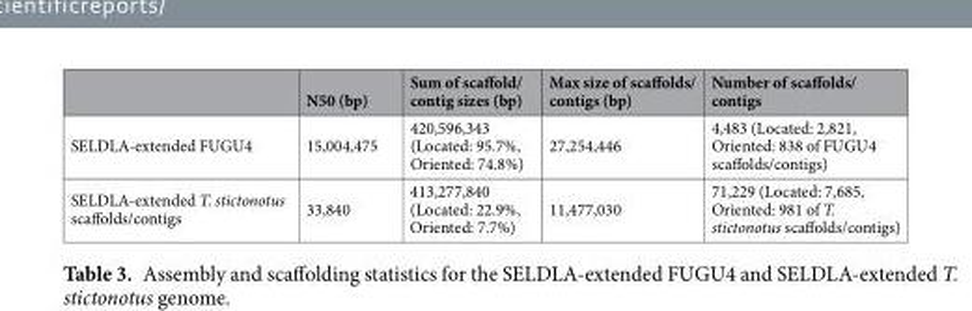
<table><thead><tr><td></td><td>N50 (bp)</td><td>Sum of scaffold/ contig sizes (bp)</td><td>Max size of scaffolds/ contigs (bp)</td><td>Number of scaffolds/ contigs</td></tr></thead><tbody><tr><td>SELDLA-extended FUGU4</td><td>15,004,475</td><td>420,596,343 (Located: 95.7%, Oriented: 74.8%)</td><td>27,254,446</td><td>4,483 (Located: 2,821, Oriented: 838 of FUGU4 scaffolds/contigs)</td></tr><tr><td>SELDLA-extended T. stictonotus scaffolds/contigs</td><td>33,840</td><td>413,277,840 (Located: 22.9%, Oriented: 7.7%)</td><td>11,477,030</td><td>71,229 (Located: 7,685, Oriented: 981 of T. stictonotus scaffolds/contigs)</td></tr></tbody></table>